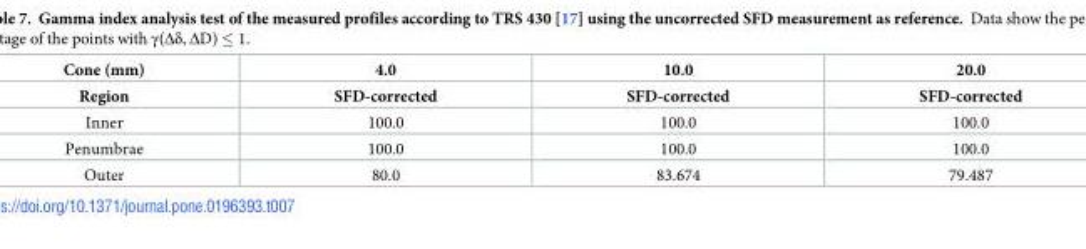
<table><thead><tr><td rowspan="2">Cone (mm) Region</td><td rowspan="2">4.0 SFD-corrected</td><td rowspan="2">10.0 SFD-corrected</td><td rowspan="2">20.0 SFD-corrected</td></tr><tr></tr></thead><tbody><tr><td>Inner</td><td>100.0</td><td>100.0</td><td>100.0</td></tr><tr><td>Penumbrae</td><td>100.0</td><td>100.0</td><td>100.0</td></tr><tr><td>Outer</td><td>80.0</td><td>83.674</td><td>79.487</td></tr></tbody></table>